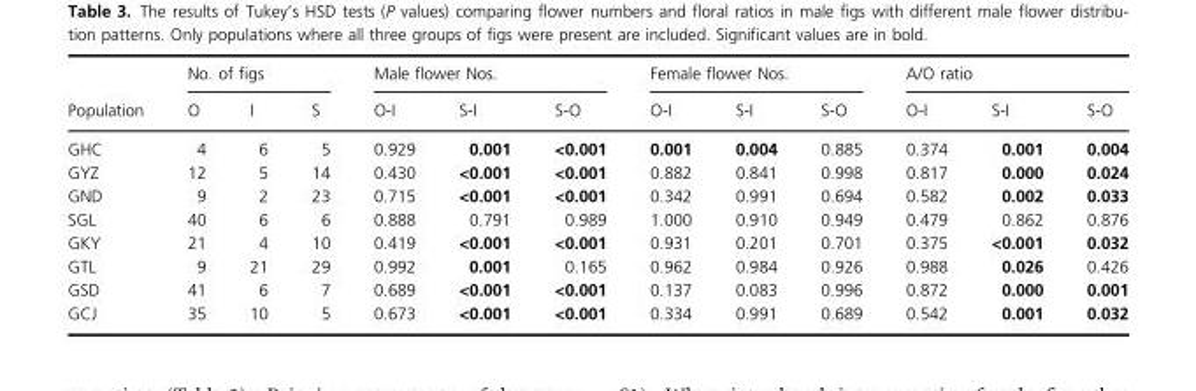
<table><thead><tr><td rowspan="2">Population</td><td colspan="3">No. of figs</td><td colspan="3">Male flower Nos.</td><td colspan="3">Female flower Nos.</td><td colspan="3">A/O ratio</td></tr><tr><td>O</td><td>I</td><td>S</td><td>O-I</td><td>S-I</td><td>S-O</td><td>O-I</td><td>S-I</td><td>S-O</td><td>O-I</td><td>S-I</td><td>S-O</td></tr></thead><tbody><tr><td>GHC</td><td>4</td><td>6</td><td>5</td><td>0.929</td><td>0.001</td><td>&lt;0.001</td><td>0.001</td><td>0.004</td><td>0.885</td><td>0.374</td><td>0.001</td><td>0.004</td></tr><tr><td>GYZ</td><td>12</td><td>5</td><td>14</td><td>0.430</td><td>&lt;0.001</td><td>&lt;0.001</td><td>0.882</td><td>0.841</td><td>0.998</td><td>0.817</td><td>0.000</td><td>0.024</td></tr><tr><td>GND</td><td>9</td><td>2</td><td>23</td><td>0.715</td><td>&lt;0.001</td><td>&lt;0.001</td><td>0.342</td><td>0.991</td><td>0.694</td><td>0.582</td><td>0.002</td><td>0.033</td></tr><tr><td>SGL</td><td>40</td><td>6</td><td>6</td><td>0.888</td><td>0.791</td><td>0.989</td><td>1.000</td><td>0.910</td><td>0.949</td><td>0.479</td><td>0.862</td><td>0.876</td></tr><tr><td>GKY</td><td>21</td><td>4</td><td>10</td><td>0.419</td><td>&lt;0.001</td><td>&lt;0.001</td><td>0.931</td><td>0.201</td><td>0.701</td><td>0.375</td><td>&lt;0.001</td><td>0.032</td></tr><tr><td>GTL</td><td>9</td><td>21</td><td>29</td><td>0.992</td><td>0.001</td><td>0.165</td><td>0.962</td><td>0.984</td><td>0.926</td><td>0.988</td><td>0.026</td><td>0.426</td></tr><tr><td>GSD</td><td>41</td><td>6</td><td>7</td><td>0.689</td><td>&lt;0.001</td><td>&lt;0.001</td><td>0.137</td><td>0.083</td><td>0.996</td><td>0.872</td><td>0.000</td><td>0.001</td></tr><tr><td>GCJ</td><td>35</td><td>10</td><td>5</td><td>0.673</td><td>&lt;0.001</td><td>&lt;0.001</td><td>0.334</td><td>0.991</td><td>0.689</td><td>0.542</td><td>0.001</td><td>0.032</td></tr></tbody></table>